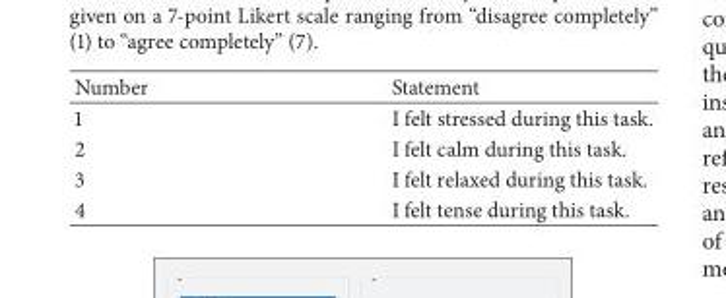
<table><thead><tr><td>Number</td><td>Statement</td></tr></thead><tbody><tr><td>1</td><td>I felt stressed during this task.</td></tr><tr><td>2</td><td>I felt calm during this task.</td></tr><tr><td>3</td><td>I felt relaxed during this task.</td></tr><tr><td>4</td><td>I felt tense during this task.</td></tr></tbody></table>